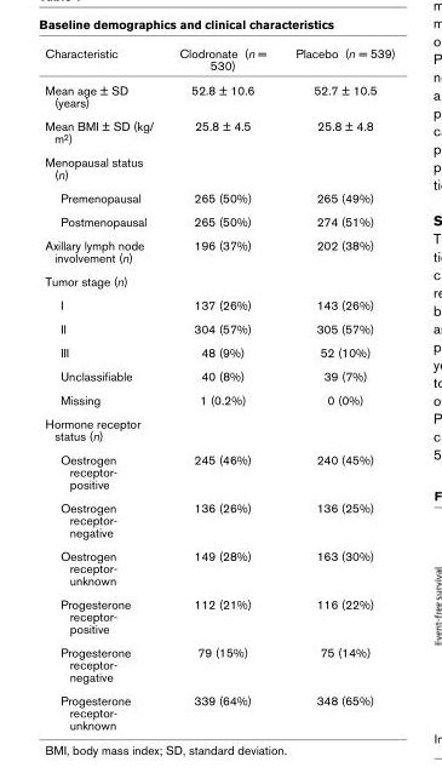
<table><thead><tr><td>Characteristic</td><td>Clodronate (n = 530)</td><td>Placebo (n = 539)</td></tr></thead><tbody><tr><td>Mean age ± SD (years)</td><td>52.8 ± 10.6</td><td>52.7 ± 10.5</td></tr><tr><td>Mean BMI ± SD (kg/ m2)</td><td>25.8 ± 4.5</td><td>25.8 ± 4.8</td></tr><tr><td colspan="3">Menopausal status (n)</td></tr><tr><td>Premenopausal</td><td>265 (50%)</td><td>265 (49%)</td></tr><tr><td>Postmenopausal</td><td>265 (50%)</td><td>274 (51%)</td></tr><tr><td>Axillary lymph node involvement (n)</td><td>196 (37%)</td><td>202 (38%)</td></tr><tr><td colspan="3">Tumor stage (n)</td></tr><tr><td>I</td><td>137 (26%)</td><td>143 (26%)</td></tr><tr><td>II</td><td>304 (57%)</td><td>305 (57%)</td></tr><tr><td>III</td><td>48 (9%)</td><td>52 (10%)</td></tr><tr><td>Unclassifiable</td><td>40 (8%)</td><td>39 (7%)</td></tr><tr><td>Missing</td><td>1 (0.2%)</td><td>0 (0%)</td></tr><tr><td colspan="3">Hormone receptor status (n)</td></tr><tr><td>Oestrogen receptor- positive</td><td>245 (46%)</td><td>240 (45%)</td></tr><tr><td>Oestrogen receptor- negative</td><td>136 (26%)</td><td>136 (25%)</td></tr><tr><td>Oestrogen receptor- unknown</td><td>149 (28%)</td><td>163 (30%)</td></tr><tr><td>Progesterone receptor- positive</td><td>112 (21%)</td><td>116 (22%)</td></tr><tr><td>Progesterone receptor- negative</td><td>79 (15%)</td><td>75 (14%)</td></tr><tr><td>Progesterone receptor- unknown</td><td>339 (64%)</td><td>348 (65%)</td></tr></tbody></table>